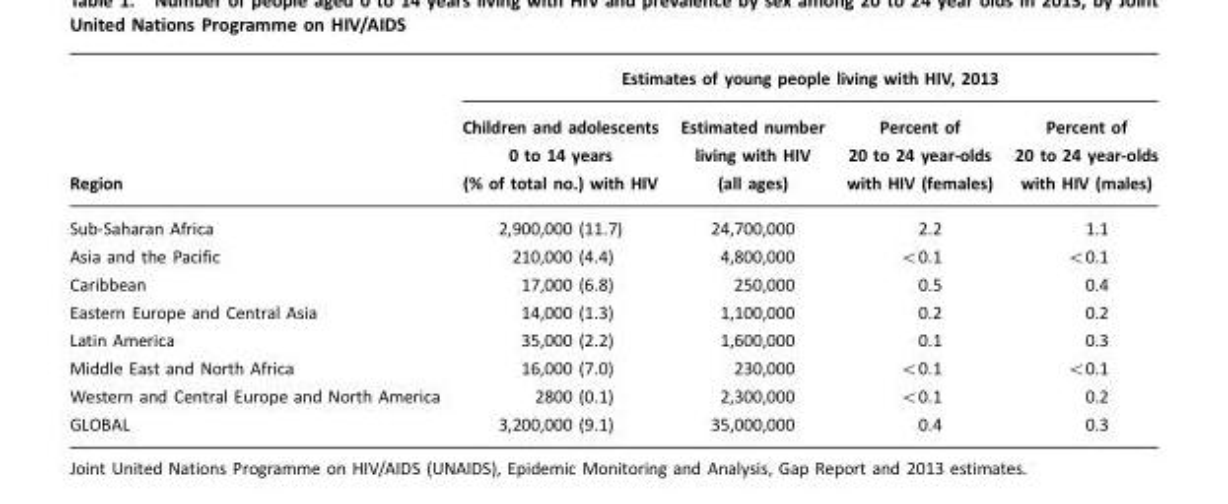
<table><thead><tr><td rowspan="2">Region</td><td colspan="4">Estimates of young people living with HIV, 2013</td></tr><tr><td>Children and adolescents 0 to 14 years (% of total no.) with HIV</td><td>Estimated number living with HIV (all ages)</td><td>Percent of 20 to 24 year-olds with HIV (females)</td><td>Percent of 20 to 24 year-olds with HIV (males)</td></tr></thead><tbody><tr><td>Sub-Saharan Africa</td><td>2,900,000 (11.7)</td><td>24,700,000</td><td>2.2</td><td>1.1</td></tr><tr><td>Asia and the Pacific</td><td>210,000 (4.4)</td><td>4,800,000</td><td>&lt;0.1</td><td>&lt;0.1</td></tr><tr><td>Caribbean</td><td>17,000 (6.8)</td><td>250,000</td><td>0.5</td><td>0.4</td></tr><tr><td>Eastern Europe and Central Asia</td><td>14,000 (1.3)</td><td>1,100,000</td><td>0.2</td><td>0.2</td></tr><tr><td>Latin America</td><td>35,000 (2.2)</td><td>1,600,000</td><td>0.1</td><td>0.3</td></tr><tr><td>Middle East and North Africa</td><td>16,000 (7.0)</td><td>230,000</td><td>&lt;0.1</td><td>&lt;0.1</td></tr><tr><td>Western and Central Europe and North America</td><td>2800 (0.1)</td><td>2,300,000</td><td>&lt;0.1</td><td>0.2</td></tr><tr><td>GLOBAL</td><td>3,200,000 (9.1)</td><td>35,000,000</td><td>0.4</td><td>0.3</td></tr></tbody></table>